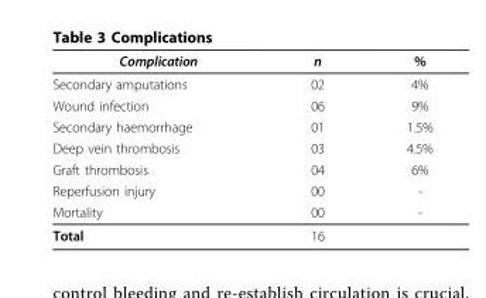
<table><thead><tr><td>Complication</td><td>n</td><td>%</td></tr></thead><tbody><tr><td>Secondary amputations</td><td>02</td><td>4%</td></tr><tr><td>Wound infection</td><td>06</td><td>9%</td></tr><tr><td>Secondary haemorrhage</td><td>01</td><td>1.5%</td></tr><tr><td>Deep vein thrombosis</td><td>03</td><td>4.5%</td></tr><tr><td>Graft thrombosis</td><td>04</td><td>6%</td></tr><tr><td>Reperfusion injury</td><td>00</td><td>-</td></tr><tr><td>Mortality</td><td>00</td><td>-</td></tr><tr><td>Total</td><td>16</td><td></td></tr></tbody></table>